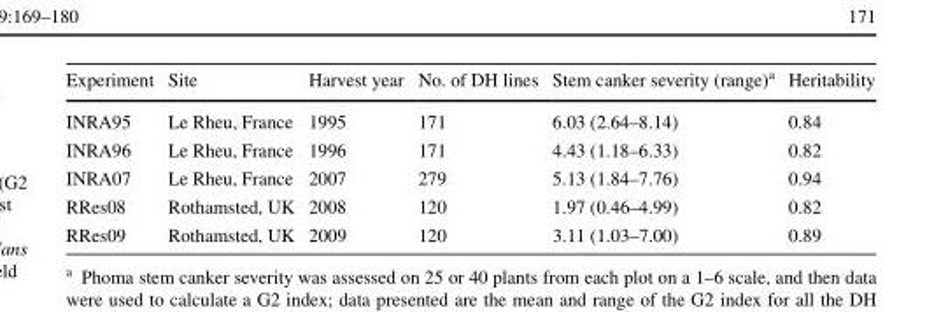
<table><thead><tr><td>Experiment</td><td>Site</td><td>Harvest year</td><td>No. of DH lines</td><td>Stem canker severity (range)<sup>a</sup></td><td>Heritability</td></tr></thead><tbody><tr><td>INRA95</td><td>Le Rheu, France</td><td>1995</td><td>171</td><td>6.03 (2.64–8.14)</td><td>0.84</td></tr><tr><td>INRA96</td><td>Le Rheu, France</td><td>1996</td><td>171</td><td>4.43 (1.18–6.33)</td><td>0.82</td></tr><tr><td>INRA07</td><td>Le Rheu, France</td><td>2007</td><td>279</td><td>5.13 (1.84–7.76)</td><td>0.94</td></tr><tr><td>RRes08</td><td>Rothamsted, UK</td><td>2008</td><td>120</td><td>1.97 (0.46–4.99)</td><td>0.82</td></tr><tr><td>RRes09</td><td>Rothamsted, UK</td><td>2009</td><td>120</td><td>3.11 (1.03–7.00)</td><td>0.89</td></tr></tbody></table>